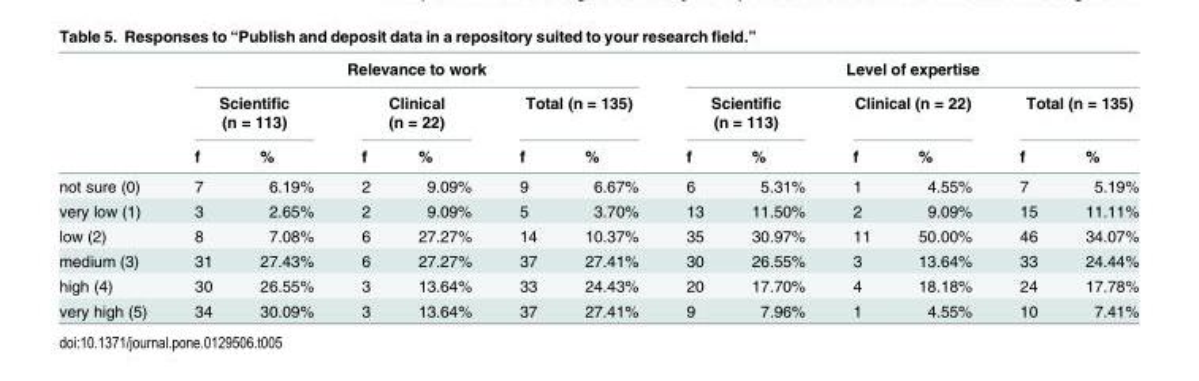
<table><thead><tr><td rowspan="3"></td><td colspan="6">Relevance to work</td><td colspan="6">Level of expertise</td></tr><tr><td colspan="2">Scientific (n = 113)</td><td colspan="2">Clinical (n = 22)</td><td colspan="2">Total (n = 135)</td><td colspan="2">Scientific (n = 113)</td><td colspan="2">Clinical (n = 22)</td><td colspan="2">Total (n = 135)</td></tr><tr><td>f</td><td>%</td><td>f</td><td>%</td><td>f</td><td>%</td><td>f</td><td>%</td><td>f</td><td>%</td><td>f</td><td>%</td></tr></thead><tbody><tr><td>not sure (0)</td><td>7</td><td>6.19%</td><td>2</td><td>9.09%</td><td>9</td><td>6.67%</td><td>6</td><td>5.31%</td><td>1</td><td>4.55%</td><td>7</td><td>5.19%</td></tr><tr><td>very low (1)</td><td>3</td><td>2.65%</td><td>2</td><td>9.09%</td><td>5</td><td>3.70%</td><td>13</td><td>11.50%</td><td>2</td><td>9.09%</td><td>15</td><td>11.11%</td></tr><tr><td>low (2)</td><td>8</td><td>7.08%</td><td>6</td><td>27.27%</td><td>14</td><td>10.37%</td><td>35</td><td>30.97%</td><td>11</td><td>50.00%</td><td>46</td><td>34.07%</td></tr><tr><td>medium (3)</td><td>31</td><td>27.43%</td><td>6</td><td>27.27%</td><td>37</td><td>27.41%</td><td>30</td><td>26.55%</td><td>3</td><td>13.64%</td><td>33</td><td>24.44%</td></tr><tr><td>high (4)</td><td>30</td><td>26.55%</td><td>3</td><td>13.64%</td><td>33</td><td>24.43%</td><td>20</td><td>17.70%</td><td>4</td><td>18.18%</td><td>24</td><td>17.78%</td></tr><tr><td>very high (5)</td><td>34</td><td>30.09%</td><td>3</td><td>13.64%</td><td>37</td><td>27.41%</td><td>9</td><td>7.96%</td><td>1</td><td>4.55%</td><td>10</td><td>7.41%</td></tr></tbody></table>